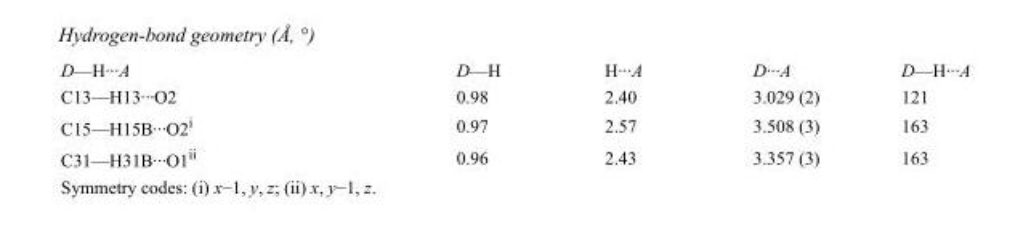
<table><tbody><tr><td>D—H···A</td><td>D—H</td><td>H···A</td><td>D···A</td><td>D—H···A</td></tr><tr><td>C13—H13···O2</td><td>0.98</td><td>2.40</td><td>3.029 (2)</td><td>121</td></tr><tr><td>C15—H15B···O2<sup>i</sup></td><td>0.97</td><td>2.57</td><td>3.508 (3)</td><td>163</td></tr><tr><td>C31—H31B···O1<sup>ii</sup></td><td>0.96</td><td>2.43</td><td>3.357 (3)</td><td>163</td></tr></tbody></table>